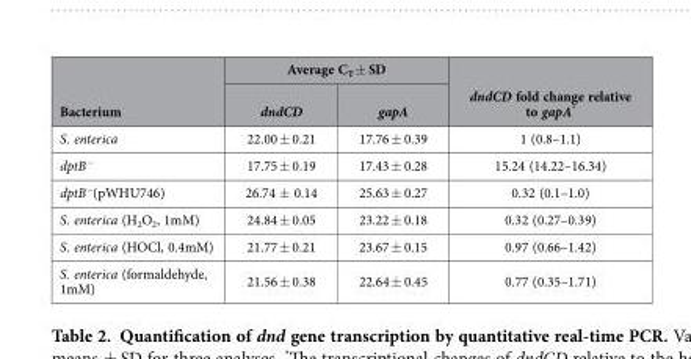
<table><thead><tr><td rowspan="2">Bacterium</td><td colspan="2">Average C<sub>T</sub> ± SD</td><td rowspan="2">dndCD fold change relative to gapA*</td></tr><tr><td>dndCD</td><td>gapA</td></tr></thead><tbody><tr><td>S. enterica</td><td>22.00 ± 0.21</td><td>17.76 ± 0.39</td><td>1 (0.8–1.1)</td></tr><tr><td>dptB<sup>−</sup></td><td>17.75 ± 0.19</td><td>17.43 ± 0.28</td><td>15.24 (14.22–16.34)</td></tr><tr><td>dptB<sup>−</sup>(pWHU746)</td><td>26.74 ± 0.14</td><td>25.63 ± 0.27</td><td>0.32 (0.1–1.0)</td></tr><tr><td>S. enterica (H<sub>2</sub>O<sub>2</sub>, 1mM)</td><td>24.84 ± 0.05</td><td>23.22 ± 0.18</td><td>0.32 (0.27–0.39)</td></tr><tr><td>S. enterica (HOCl, 0.4mM)</td><td>21.77 ± 0.21</td><td>23.67 ± 0.15</td><td>0.97 (0.66–1.42)</td></tr><tr><td>S. enterica (formaldehyde, 1mM)</td><td>21.56 ± 0.38</td><td>22.64 ± 0.45</td><td>0.77 (0.35–1.71)</td></tr></tbody></table>